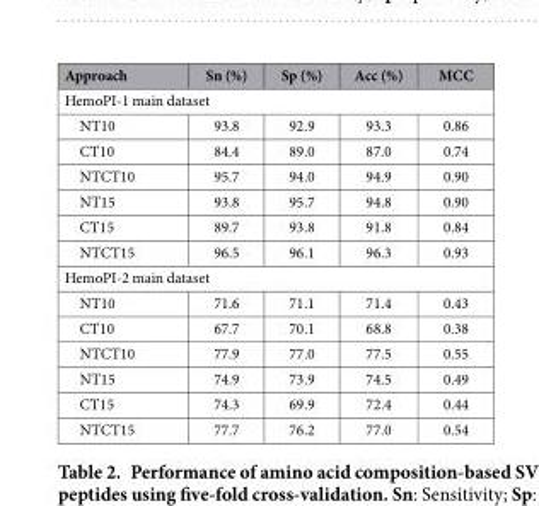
<table><thead><tr><td>Approach</td><td>Sn (%)</td><td>Sp (%)</td><td>Acc (%)</td><td>MCC</td></tr></thead><tbody><tr><td colspan="5">HemoPI-1 main dataset</td></tr><tr><td>NT10</td><td>93.8</td><td>92.9</td><td>93.3</td><td>0.86</td></tr><tr><td>CT10</td><td>84.4</td><td>89.0</td><td>87.0</td><td>0.74</td></tr><tr><td>NTCT10</td><td>95.7</td><td>94.0</td><td>94.9</td><td>0.90</td></tr><tr><td>NT15</td><td>93.8</td><td>95.7</td><td>94.8</td><td>0.90</td></tr><tr><td>CT15</td><td>89.7</td><td>93.8</td><td>91.8</td><td>0.84</td></tr><tr><td>NTCT15</td><td>96.5</td><td>96.1</td><td>96.3</td><td>0.93</td></tr><tr><td colspan="5">HemoPI-2 main dataset</td></tr><tr><td>NT10</td><td>71.6</td><td>71.1</td><td>71.4</td><td>0.43</td></tr><tr><td>CT10</td><td>67.7</td><td>70.1</td><td>68.8</td><td>0.38</td></tr><tr><td>NTCT10</td><td>77.9</td><td>77.0</td><td>77.5</td><td>0.55</td></tr><tr><td>NT15</td><td>74.9</td><td>73.9</td><td>74.5</td><td>0.49</td></tr><tr><td>CT15</td><td>74.3</td><td>69.9</td><td>72.4</td><td>0.44</td></tr><tr><td>NTCT15</td><td>77.7</td><td>76.2</td><td>77.0</td><td>0.54</td></tr></tbody></table>